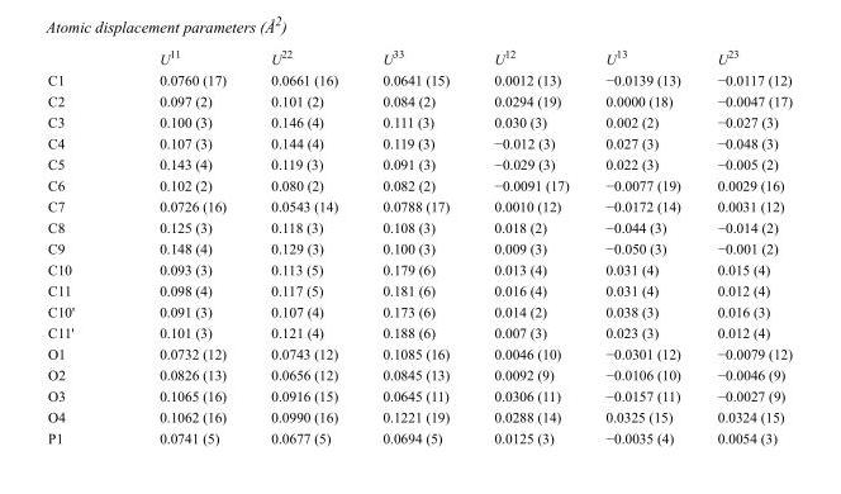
<table><thead><tr><td></td><td>U<sup>11</sup></td><td>U<sup>22</sup></td><td>U<sup>33</sup></td><td>U<sup>12</sup></td><td>U<sup>13</sup></td><td>U<sup>23</sup></td></tr></thead><tbody><tr><td>C1</td><td>0.0760 (17)</td><td>0.0661 (16)</td><td>0.0641 (15)</td><td>0.0012 (13)</td><td>−0.0139 (13)</td><td>−0.0117 (12)</td></tr><tr><td>C2</td><td>0.097 (2)</td><td>0.101 (2)</td><td>0.084 (2)</td><td>0.0294 (19)</td><td>0.0000 (18)</td><td>−0.0047 (17)</td></tr><tr><td>C3</td><td>0.100 (3)</td><td>0.146 (4)</td><td>0.111 (3)</td><td>0.030 (3)</td><td>0.002 (2)</td><td>−0.027 (3)</td></tr><tr><td>C4</td><td>0.107 (3)</td><td>0.144 (4)</td><td>0.119 (3)</td><td>−0.012 (3)</td><td>0.027 (3)</td><td>−0.048 (3)</td></tr><tr><td>C5</td><td>0.143 (4)</td><td>0.119 (3)</td><td>0.091 (3)</td><td>−0.029 (3)</td><td>0.022 (3)</td><td>−0.005 (2)</td></tr><tr><td>C6</td><td>0.102 (2)</td><td>0.080 (2)</td><td>0.082 (2)</td><td>−0.0091 (17)</td><td>−0.0077 (19)</td><td>0.0029 (16)</td></tr><tr><td>C7</td><td>0.0726 (16)</td><td>0.0543 (14)</td><td>0.0788 (17)</td><td>0.0010 (12)</td><td>−0.0172 (14)</td><td>0.0031 (12)</td></tr><tr><td>C8</td><td>0.125 (3)</td><td>0.118 (3)</td><td>0.108 (3)</td><td>0.018 (2)</td><td>−0.044 (3)</td><td>−0.014 (2)</td></tr><tr><td>C9</td><td>0.148 (4)</td><td>0.129 (3)</td><td>0.100 (3)</td><td>0.009 (3)</td><td>−0.050 (3)</td><td>−0.001 (2)</td></tr><tr><td>C10</td><td>0.093 (3)</td><td>0.113 (5)</td><td>0.179 (6)</td><td>0.013 (4)</td><td>0.031 (4)</td><td>0.015 (4)</td></tr><tr><td>C11</td><td>0.098 (4)</td><td>0.117 (5)</td><td>0.181 (6)</td><td>0.016 (4)</td><td>0.031 (4)</td><td>0.012 (4)</td></tr><tr><td>C10&#x27;</td><td>0.091 (3)</td><td>0.107 (4)</td><td>0.173 (6)</td><td>0.014 (2)</td><td>0.038 (3)</td><td>0.016 (3)</td></tr><tr><td>C11&#x27;</td><td>0.101 (3)</td><td>0.121 (4)</td><td>0.188 (6)</td><td>0.007 (3)</td><td>0.023 (3)</td><td>0.012 (4)</td></tr><tr><td>O1</td><td>0.0732 (12)</td><td>0.0743 (12)</td><td>0.1085 (16)</td><td>0.0046 (10)</td><td>−0.0301 (12)</td><td>−0.0079 (12)</td></tr><tr><td>O2</td><td>0.0826 (13)</td><td>0.0656 (12)</td><td>0.0845 (13)</td><td>0.0092 (9)</td><td>−0.0106 (10)</td><td>−0.0046 (9)</td></tr><tr><td>O3</td><td>0.1065 (16)</td><td>0.0916 (15)</td><td>0.0645 (11)</td><td>0.0306 (11)</td><td>−0.0157 (11)</td><td>−0.0027 (9)</td></tr><tr><td>O4</td><td>0.1062 (16)</td><td>0.0990 (16)</td><td>0.1221 (19)</td><td>0.0288 (14)</td><td>0.0325 (15)</td><td>0.0324 (15)</td></tr><tr><td>P1</td><td>0.0741 (5)</td><td>0.0677 (5)</td><td>0.0694 (5)</td><td>0.0125 (3)</td><td>−0.0035 (4)</td><td>0.0054 (3)</td></tr></tbody></table>